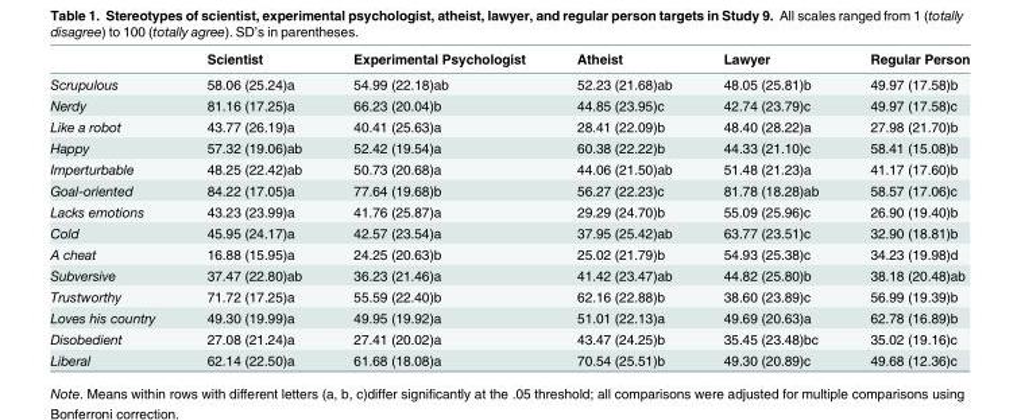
<table><thead><tr><td></td><td>Scientist</td><td>Experimental Psychologist</td><td>Atheist</td><td>Lawyer</td><td>Regular Person</td></tr></thead><tbody><tr><td>Scrupulous</td><td>58.06 (25.24)a</td><td>54.99 (22.18)ab</td><td>52.23 (21.68)ab</td><td>48.05 (25.81)b</td><td>49.97 (17.58)b</td></tr><tr><td>Nerdy</td><td>81.16 (17.25)a</td><td>66.23 (20.04)b</td><td>44.85 (23.95)c</td><td>42.74 (23.79)c</td><td>49.97 (17.58)c</td></tr><tr><td>Like a robot</td><td>43.77 (26.19)a</td><td>40.41 (25.63)a</td><td>28.41 (22.09)b</td><td>48.40 (28.22)a</td><td>27.98 (21.70)b</td></tr><tr><td>Happy</td><td>57.32 (19.06)ab</td><td>52.42 (19.54)a</td><td>60.38 (22.22)b</td><td>44.33 (21.10)c</td><td>58.41 (15.08)b</td></tr><tr><td>Imperturbable</td><td>48.25 (22.42)ab</td><td>50.73 (20.68)a</td><td>44.06 (21.50)ab</td><td>51.48 (21.23)a</td><td>41.17 (17.60)b</td></tr><tr><td>Goal-oriented</td><td>84.22 (17.05)a</td><td>77.64 (19.68)b</td><td>56.27 (22.23)c</td><td>81.78 (18.28)ab</td><td>58.57 (17.06)c</td></tr><tr><td>Lacks emotions</td><td>43.23 (23.99)a</td><td>41.76 (25.87)a</td><td>29.29 (24.70)b</td><td>55.09 (25.96)c</td><td>26.90 (19.40)b</td></tr><tr><td>Cold</td><td>45.95 (24.17)a</td><td>42.57 (23.54)a</td><td>37.95 (25.42)ab</td><td>63.77 (23.51)c</td><td>32.90 (18.81)b</td></tr><tr><td>A cheat</td><td>16.88 (15.95)a</td><td>24.25 (20.63)b</td><td>25.02 (21.79)b</td><td>54.93 (25.38)c</td><td>34.23 (19.98)d</td></tr><tr><td>Subversive</td><td>37.47 (22.80)ab</td><td>36.23 (21.46)a</td><td>41.42 (23.47)ab</td><td>44.82 (25.80)b</td><td>38.18 (20.48)ab</td></tr><tr><td>Trustworthy</td><td>71.72 (17.25)a</td><td>55.59 (22.40)b</td><td>62.16 (22.88)b</td><td>38.60 (23.89)c</td><td>56.99 (19.39)b</td></tr><tr><td>Loves his country</td><td>49.30 (19.99)a</td><td>49.95 (19.92)a</td><td>51.01 (22.13)a</td><td>49.69 (20.63)a</td><td>62.78 (16.89)b</td></tr><tr><td>Disobedient</td><td>27.08 (21.24)a</td><td>27.41 (20.02)a</td><td>43.47 (24.25)b</td><td>35.45 (23.48)bc</td><td>35.02 (19.16)c</td></tr><tr><td>Liberal</td><td>62.14 (22.50)a</td><td>61.68 (18.08)a</td><td>70.54 (25.51)b</td><td>49.30 (20.89)c</td><td>49.68 (12.36)c</td></tr></tbody></table>